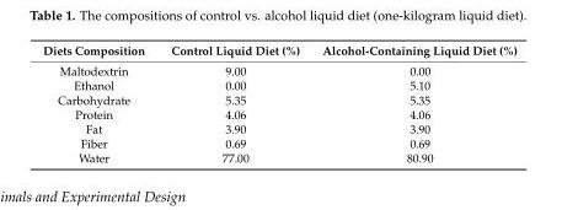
<table><thead><tr><td>Diets Composition</td><td>Control Liquid Diet (%)</td><td>Alcohol-Containing Liquid Diet (%)</td></tr></thead><tbody><tr><td>Maltodextrin</td><td>9.00</td><td>0.00</td></tr><tr><td>Ethanol</td><td>0.00</td><td>5.10</td></tr><tr><td>Carbohydrate</td><td>5.35</td><td>5.35</td></tr><tr><td>Protein</td><td>4.06</td><td>4.06</td></tr><tr><td>Fat</td><td>3.90</td><td>3.90</td></tr><tr><td>Fiber</td><td>0.69</td><td>0.69</td></tr><tr><td>Water</td><td>77.00</td><td>80.90</td></tr></tbody></table>